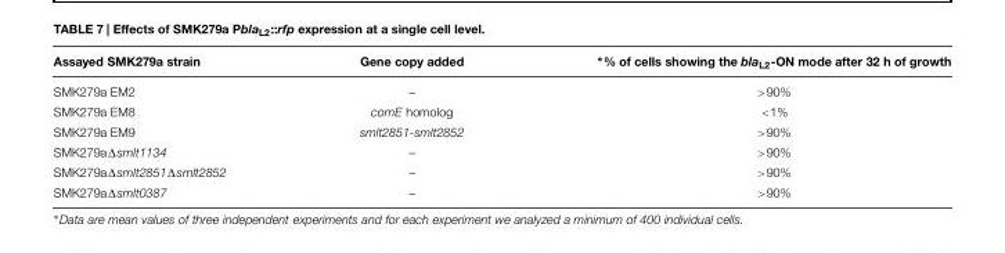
<table><thead><tr><td>Assayed SMK279a strain</td><td>Gene copy added</td><td>∗% of cells showing the bla<sub>L2</sub>-ON mode after 32 h of growth</td></tr></thead><tbody><tr><td>SMK279a EM2</td><td>–</td><td>&gt;90%</td></tr><tr><td>SMK279a EM8</td><td>comE homolog</td><td>&lt;1%</td></tr><tr><td>SMK279a EM9</td><td>smlt2851-smlt2852</td><td>&gt;90%</td></tr><tr><td>SMK279aΔsmlt1134</td><td>–</td><td>&gt;90%</td></tr><tr><td>SMK279aΔsmlt2851Δsmlt2852</td><td>–</td><td>&gt;90%</td></tr><tr><td>SMK279aΔsmlt0387</td><td>–</td><td>&gt;90%</td></tr></tbody></table>